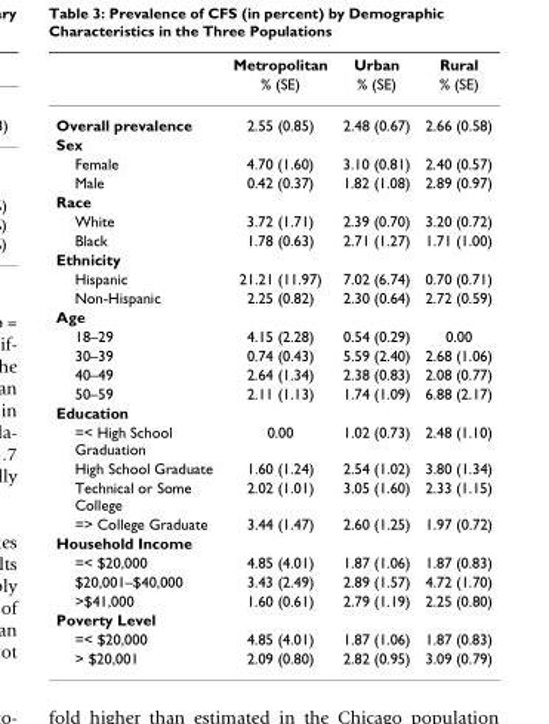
<table><thead><tr><td rowspan="2"></td><td rowspan="2">Metropolitan % (SE)</td><td rowspan="2">Urban % (SE)</td><td rowspan="2">Rural % (SE)</td></tr><tr></tr></thead><tbody><tr><td>Overall prevalence</td><td>2.55 (0.85)</td><td>2.48 (0.67)</td><td>2.66 (0.58)</td></tr><tr><td colspan="4">Sex</td></tr><tr><td>Female</td><td>4.70 (1.60)</td><td>3.10 (0.81)</td><td>2.40 (0.57)</td></tr><tr><td>Male</td><td>0.42 (0.37)</td><td>1.82 (1.08)</td><td>2.89 (0.97)</td></tr><tr><td colspan="4">Race</td></tr><tr><td>White</td><td>3.72 (1.71)</td><td>2.39 (0.70)</td><td>3.20 (0.72)</td></tr><tr><td>Black</td><td>1.78 (0.63)</td><td>2.71 (1.27)</td><td>1.71 (1.00)</td></tr><tr><td colspan="4">Ethnicity</td></tr><tr><td>Hispanic</td><td>21.21 (11.97)</td><td>7.02 (6.74)</td><td>0.70 (0.71)</td></tr><tr><td>Non-Hispanic</td><td>2.25 (0.82)</td><td>2.30 (0.64)</td><td>2.72 (0.59)</td></tr><tr><td colspan="4">Age</td></tr><tr><td>18–29</td><td>4.15 (2.28)</td><td>0.54 (0.29)</td><td>0.00</td></tr><tr><td>30–39</td><td>0.74 (0.43)</td><td>5.59 (2.40)</td><td>2.68 (1.06)</td></tr><tr><td>40–49</td><td>2.64 (1.34)</td><td>2.38 (0.83)</td><td>2.08 (0.77)</td></tr><tr><td>50–59</td><td>2.11 (1.13)</td><td>1.74 (1.09)</td><td>6.88 (2.17)</td></tr><tr><td colspan="4">Education</td></tr><tr><td>=&lt; High School Graduation</td><td>0.00</td><td>1.02 (0.73)</td><td>2.48 (1.10)</td></tr><tr><td>High School Graduate</td><td>1.60 (1.24)</td><td>2.54 (1.02)</td><td>3.80 (1.34)</td></tr><tr><td>Technical or Some College</td><td>2.02 (1.01)</td><td>3.05 (1.60)</td><td>2.33 (1.15)</td></tr><tr><td>=&gt; College Graduate</td><td>3.44 (1.47)</td><td>2.60 (1.25)</td><td>1.97 (0.72)</td></tr><tr><td colspan="4">Household Income</td></tr><tr><td>=&lt; $20,000</td><td>4.85 (4.01)</td><td>1.87 (1.06)</td><td>1.87 (0.83)</td></tr><tr><td>$20,001–$40,000</td><td>3.43 (2.49)</td><td>2.89 (1.57)</td><td>4.72 (1.70)</td></tr><tr><td>&gt;$41,000</td><td>1.60 (0.61)</td><td>2.79 (1.19)</td><td>2.25 (0.80)</td></tr><tr><td colspan="4">Poverty Level</td></tr><tr><td>=&lt; $20,000</td><td>4.85 (4.01)</td><td>1.87 (1.06)</td><td>1.87 (0.83)</td></tr><tr><td>&gt; $20,001</td><td>2.09 (0.80)</td><td>2.82 (0.95)</td><td>3.09 (0.79)</td></tr></tbody></table>